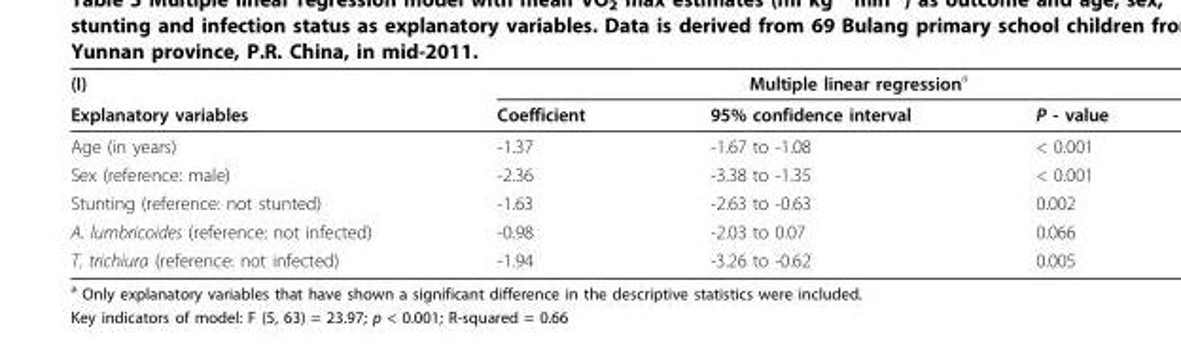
<table><thead><tr><td rowspan="2">(I) Explanatory variables</td><td colspan="3">Multiple linear regression<sup>a</sup></td></tr><tr><td>Coefficient</td><td>95% confidence interval</td><td>P - value</td></tr></thead><tbody><tr><td>Age (in years)</td><td>-1.37</td><td>-1.67 to -1.08</td><td>&lt; 0.001</td></tr><tr><td>Sex (reference: male)</td><td>-2.36</td><td>-3.38 to -1.35</td><td>&lt; 0.001</td></tr><tr><td>Stunting (reference: not stunted)</td><td>-1.63</td><td>-2.63 to -0.63</td><td>0.002</td></tr><tr><td>A. lumbricoides (reference: not infected)</td><td>-0.98</td><td>-2.03 to 0.07</td><td>0.066</td></tr><tr><td>T. trichiura (reference: not infected)</td><td>-1.94</td><td>-3.26 to -0.62</td><td>0.005</td></tr></tbody></table>